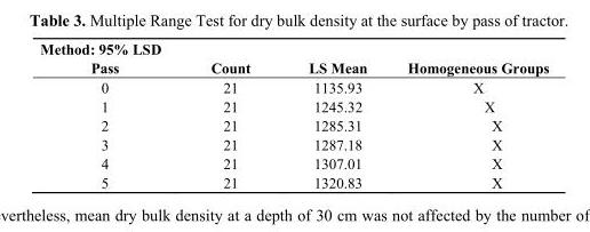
<table><thead><tr><td colspan="4">Method: 95% LSD</td></tr><tr><td>Pass</td><td>Count</td><td>LS Mean</td><td>Homogeneous Groups</td></tr></thead><tbody><tr><td>0</td><td>21</td><td>1135.93</td><td>X</td></tr><tr><td>1</td><td>21</td><td>1245.32</td><td>X</td></tr><tr><td>2</td><td>21</td><td>1285.31</td><td>X</td></tr><tr><td>3</td><td>21</td><td>1287.18</td><td>X</td></tr><tr><td>4</td><td>21</td><td>1307.01</td><td>X</td></tr><tr><td>5</td><td>21</td><td>1320.83</td><td>X</td></tr></tbody></table>